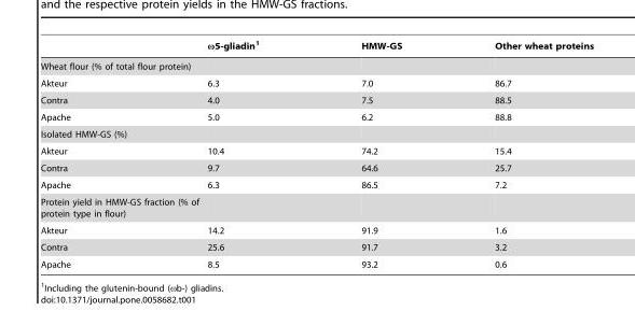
<table><thead><tr><td></td><td>ω5-gliadin<sup>1</sup></td><td>HMW-GS</td><td>Other wheat proteins</td></tr></thead><tbody><tr><td colspan="4">Wheat flour (% of total flour protein)</td></tr><tr><td>Akteur</td><td>6.3</td><td>7.0</td><td>86.7</td></tr><tr><td>Contra</td><td>4.0</td><td>7.5</td><td>88.5</td></tr><tr><td>Apache</td><td>5.0</td><td>6.2</td><td>88.8</td></tr><tr><td colspan="4">Isolated HMW-GS (%)</td></tr><tr><td>Akteur</td><td>10.4</td><td>74.2</td><td>15.4</td></tr><tr><td>Contra</td><td>9.7</td><td>64.6</td><td>25.7</td></tr><tr><td>Apache</td><td>6.3</td><td>86.5</td><td>7.2</td></tr><tr><td colspan="4">Protein yield in HMW-GS fraction (% of protein type in flour)</td></tr><tr><td>Akteur</td><td>14.2</td><td>91.9</td><td>1.6</td></tr><tr><td>Contra</td><td>25.6</td><td>91.7</td><td>3.2</td></tr><tr><td>Apache</td><td>8.5</td><td>93.2</td><td>0.6</td></tr></tbody></table>